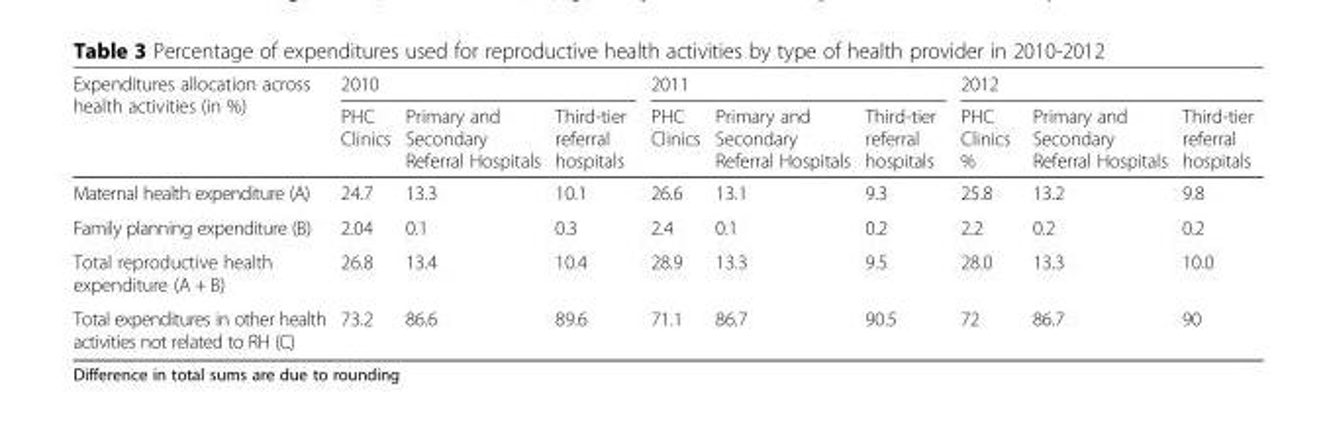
<table><thead><tr><td rowspan="2">Expenditures allocation across health activities (in %)</td><td colspan="3">2010</td><td colspan="3">2011</td><td colspan="3">2012</td></tr><tr><td>PHC Clinics</td><td>Primary and Secondary Referral Hospitals</td><td>Third-tier referral hospitals</td><td>PHC Clinics</td><td>Primary and Secondary Referral Hospitals</td><td>Third-tier referral hospitals</td><td>PHC Clinics %</td><td>Primary and Secondary Referral Hospitals</td><td>Third-tier referral hospitals</td></tr></thead><tbody><tr><td>Maternal health expenditure (A)</td><td>24.7</td><td>13.3</td><td>10.1</td><td>26.6</td><td>13.1</td><td>9.3</td><td>25.8</td><td>13.2</td><td>9.8</td></tr><tr><td>Family planning expenditure (B)</td><td>2.04</td><td>0.1</td><td>0.3</td><td>2.4</td><td>0.1</td><td>0.2</td><td>2.2</td><td>0.2</td><td>0.2</td></tr><tr><td>Total reproductive health expenditure (A + B)</td><td>26.8</td><td>13.4</td><td>10.4</td><td>28.9</td><td>13.3</td><td>9.5</td><td>28.0</td><td>13.3</td><td>10.0</td></tr><tr><td>Total expenditures in other health activities not related to RH (C)</td><td>73.2</td><td>86.6</td><td>89.6</td><td>71.1</td><td>86.7</td><td>90.5</td><td>72</td><td>86.7</td><td>90</td></tr></tbody></table>